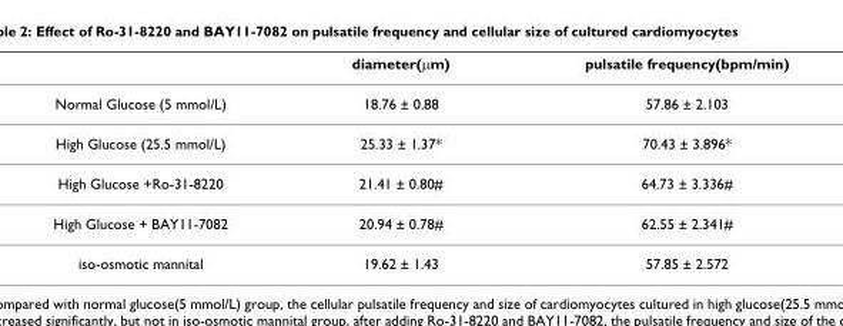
<table><thead><tr><td></td><td>diameter(μm)</td><td>pulsatile frequency(bpm/min)</td></tr></thead><tbody><tr><td>Normal Glucose (5 mmol/L)</td><td>18.76 ± 0.88</td><td>57.86 ± 2.103</td></tr><tr><td>High Glucose (25.5 mmol/L)</td><td>25.33 ± 1.37*</td><td>70.43 ± 3.896*</td></tr><tr><td>High Glucose +Ro-31-8220</td><td>21.41 ± 0.80#</td><td>64.73 ± 3.336#</td></tr><tr><td>High Glucose + BAY11-7082</td><td>20.94 ± 0.78#</td><td>62.55 ± 2.341#</td></tr><tr><td>iso-osmotic mannital</td><td>19.62 ± 1.43</td><td>57.85 ± 2.572</td></tr></tbody></table>